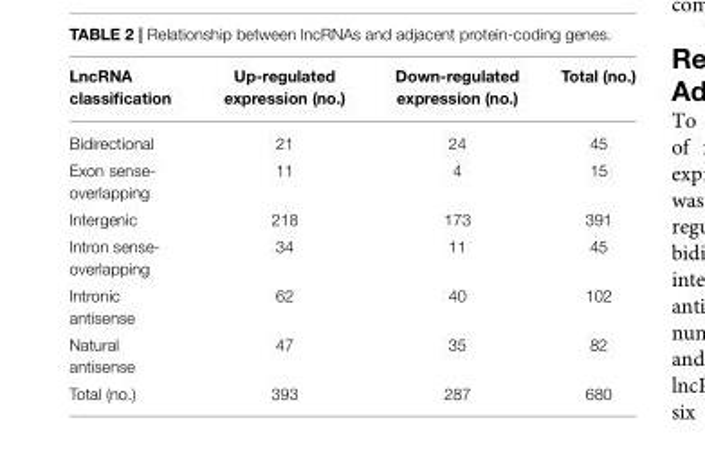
<table><thead><tr><td>LncRNA classification</td><td>Up-regulated expression (no.)</td><td>Down-regulated expression (no.)</td><td>Total (no.)</td></tr></thead><tbody><tr><td>Bidirectional</td><td>21</td><td>24</td><td>45</td></tr><tr><td>Exon sense- overlapping</td><td>11</td><td>4</td><td>15</td></tr><tr><td>Intergenic</td><td>218</td><td>173</td><td>391</td></tr><tr><td>Intron sense- overlapping</td><td>34</td><td>11</td><td>45</td></tr><tr><td>Intronic antisense</td><td>62</td><td>40</td><td>102</td></tr><tr><td>Natural antisense</td><td>47</td><td>35</td><td>82</td></tr><tr><td>Total (no.)</td><td>393</td><td>287</td><td>680</td></tr></tbody></table>